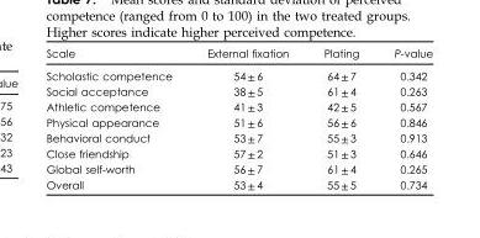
<table><thead><tr><td>Scale</td><td>External fixation</td><td>Plating</td><td>P-value</td></tr></thead><tbody><tr><td>Scholastic competence</td><td>54 ± 6</td><td>64 ± 7</td><td>0.342</td></tr><tr><td>Social acceptance</td><td>38 ± 5</td><td>61 ± 4</td><td>0.263</td></tr><tr><td>Athletic competence</td><td>41 ± 3</td><td>42 ± 5</td><td>0.567</td></tr><tr><td>Physical appearance</td><td>51 ± 6</td><td>56 ± 6</td><td>0.846</td></tr><tr><td>Behavioral conduct</td><td>53 ± 7</td><td>55 ± 3</td><td>0.913</td></tr><tr><td>Close friendship</td><td>57 ± 2</td><td>51 ± 3</td><td>0.646</td></tr><tr><td>Global self-worth</td><td>56 ± 7</td><td>61 ± 4</td><td>0.265</td></tr><tr><td>Overall</td><td>53 ± 4</td><td>55 ± 5</td><td>0.734</td></tr></tbody></table>